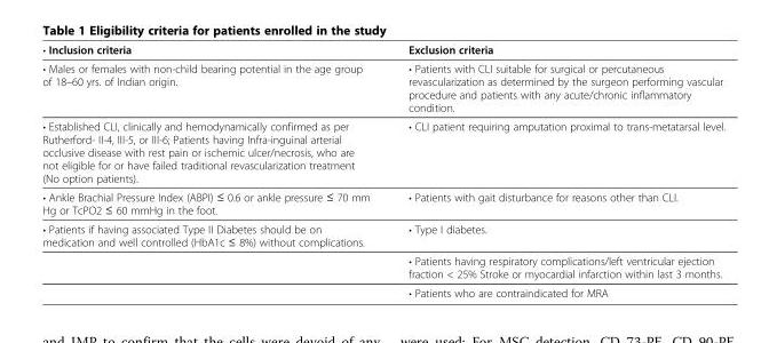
<table><thead><tr><td>• Inclusion criteria</td><td>Exclusion criteria</td></tr></thead><tbody><tr><td>• Males or females with non-child bearing potential in the age group of 18–60 yrs. of Indian origin.</td><td>• Patients with CLI suitable for surgical or percutaneous revascularization as determined by the surgeon performing vascular procedure and patients with any acute/chronic inflammatory condition.</td></tr><tr><td>• Established CLI, clinically and hemodynamically confirmed as per Rutherford- II-4, III-5, or III-6; Patients having Infra-inguinal arterial occlusive disease with rest pain or ischemic ulcer/necrosis, who are not eligible for or have failed traditional revascularization treatment (No option patients).</td><td>• CLI patient requiring amputation proximal to trans-metatarsal level.</td></tr><tr><td>• Ankle Brachial Pressure Index (ABPI) ≤ 0.6 or ankle pressure ≤ 70 mm Hg or TcPO2 ≤ 60 mmHg in the foot.</td><td>• Patients with gait disturbance for reasons other than CLI.</td></tr><tr><td rowspan="3">• Patients if having associated Type II Diabetes should be on medication and well controlled (HbA1c ≤ 8%) without complications.</td><td>• Type I diabetes.</td></tr><tr><td>• Patients having respiratory complications/left ventricular ejection fraction &lt; 25% Stroke or myocardial infarction within last 3 months.</td></tr><tr><td>• Patients who are contraindicated for MRA</td></tr></tbody></table>